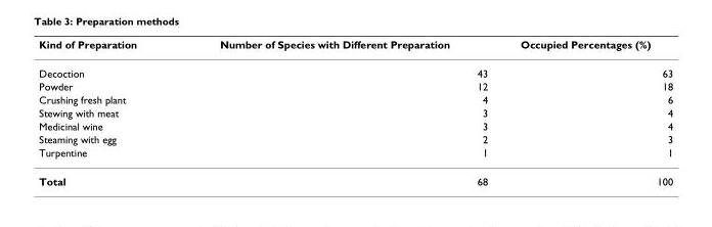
<table><thead><tr><td>Kind of Preparation</td><td>Number of Species with Different Preparation</td><td>Occupied Percentages (%)</td></tr></thead><tbody><tr><td>Decoction</td><td>43</td><td>63</td></tr><tr><td>Powder</td><td>12</td><td>18</td></tr><tr><td>Crushing fresh plant</td><td>4</td><td>6</td></tr><tr><td>Stewing with meat</td><td>3</td><td>4</td></tr><tr><td>Medicinal wine</td><td>3</td><td>4</td></tr><tr><td>Steaming with egg</td><td>2</td><td>3</td></tr><tr><td>Turpentine</td><td>1</td><td>1</td></tr><tr><td>Total</td><td>68</td><td>100</td></tr></tbody></table>